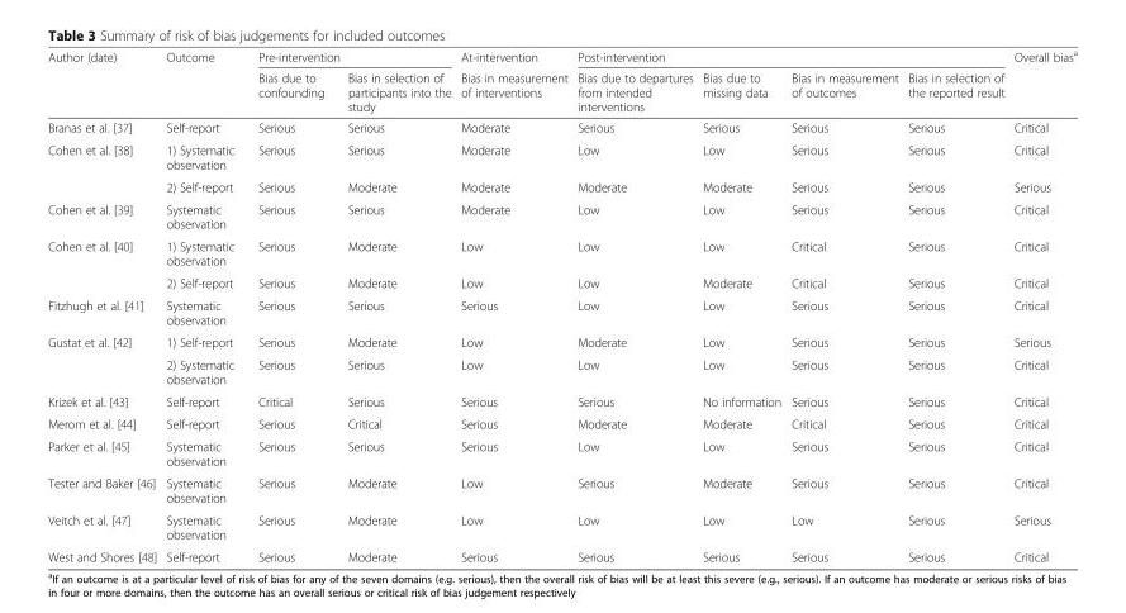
<table><thead><tr><td rowspan="2">Author (date)</td><td rowspan="2">Outcome</td><td colspan="2">Pre-intervention</td><td rowspan="2">At-intervention Bias in measurement of interventions</td><td colspan="4">Post-intervention</td><td rowspan="2">Overall bias<sup>a</sup></td></tr><tr><td>Bias due to confounding</td><td>Bias in selection of participants into the study</td><td>Bias due to departures from intended interventions</td><td>Bias due to missing data</td><td>Bias in measurement of outcomes</td><td>Bias in selection of the reported result</td></tr></thead><tbody><tr><td>Branas et al. [37]</td><td>Self-report</td><td>Serious</td><td>Serious</td><td>Moderate</td><td>Serious</td><td>Serious</td><td>Serious</td><td>Serious</td><td>Critical</td></tr><tr><td rowspan="2">Cohen et al. [38]</td><td>1) Systematic observation</td><td>Serious</td><td>Serious</td><td>Moderate</td><td>Low</td><td>Low</td><td>Serious</td><td>Serious</td><td>Critical</td></tr><tr><td>2) Self-report</td><td>Serious</td><td>Moderate</td><td>Moderate</td><td>Moderate</td><td>Moderate</td><td>Serious</td><td>Serious</td><td>Serious</td></tr><tr><td>Cohen et al. [39]</td><td>Systematic observation</td><td>Serious</td><td>Serious</td><td>Moderate</td><td>Low</td><td>Low</td><td>Serious</td><td>Serious</td><td>Critical</td></tr><tr><td rowspan="2">Cohen et al. [40]</td><td>1) Systematic observation</td><td>Serious</td><td>Moderate</td><td>Low</td><td>Low</td><td>Low</td><td>Critical</td><td>Serious</td><td>Critical</td></tr><tr><td>2) Self-report</td><td>Serious</td><td>Moderate</td><td>Low</td><td>Low</td><td>Moderate</td><td>Critical</td><td>Serious</td><td>Critical</td></tr><tr><td>Fitzhugh et al. [41]</td><td>Systematic observation</td><td>Serious</td><td>Serious</td><td>Serious</td><td>Low</td><td>Low</td><td>Serious</td><td>Serious</td><td>Critical</td></tr><tr><td rowspan="2">Gustat et al. [42]</td><td>1) Self-report</td><td>Serious</td><td>Moderate</td><td>Low</td><td>Moderate</td><td>Low</td><td>Serious</td><td>Serious</td><td>Serious</td></tr><tr><td>2) Systematic observation</td><td>Serious</td><td>Serious</td><td>Low</td><td>Low</td><td>Low</td><td>Serious</td><td>Serious</td><td>Critical</td></tr><tr><td>Krizek et al. [43]</td><td>Self-report</td><td>Critical</td><td>Serious</td><td>Serious</td><td>Serious</td><td>No information</td><td>Serious</td><td>Serious</td><td>Critical</td></tr><tr><td>Merom et al. [44]</td><td>Self-report</td><td>Serious</td><td>Critical</td><td>Serious</td><td>Moderate</td><td>Moderate</td><td>Critical</td><td>Serious</td><td>Critical</td></tr><tr><td>Parker et al. [45]</td><td>Systematic observation</td><td>Serious</td><td>Serious</td><td>Serious</td><td>Low</td><td>Low</td><td>Serious</td><td>Serious</td><td>Critical</td></tr><tr><td>Tester and Baker [46]</td><td>Systematic observation</td><td>Serious</td><td>Moderate</td><td>Low</td><td>Serious</td><td>Moderate</td><td>Serious</td><td>Serious</td><td>Critical</td></tr><tr><td>Veitch et al. [47]</td><td>Systematic observation</td><td>Serious</td><td>Moderate</td><td>Low</td><td>Low</td><td>Low</td><td>Low</td><td>Serious</td><td>Serious</td></tr><tr><td>West and Shores [48]</td><td>Self-report</td><td>Serious</td><td>Moderate</td><td>Serious</td><td>Serious</td><td>Serious</td><td>Serious</td><td>Serious</td><td>Critical</td></tr></tbody></table>